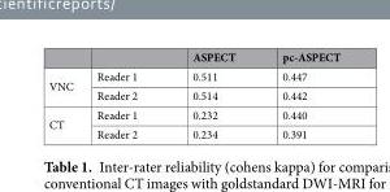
<table><thead><tr><td></td><td></td><td>ASPECT</td><td>pc-ASPECT</td></tr></thead><tbody><tr><td rowspan="2">VNC</td><td>Reader 1</td><td>0.511</td><td>0.447</td></tr><tr><td>Reader 2</td><td>0.514</td><td>0.442</td></tr><tr><td rowspan="2">CT</td><td>Reader 1</td><td>0.232</td><td>0.440</td></tr><tr><td>Reader 2</td><td>0.234</td><td>0.391</td></tr></tbody></table>